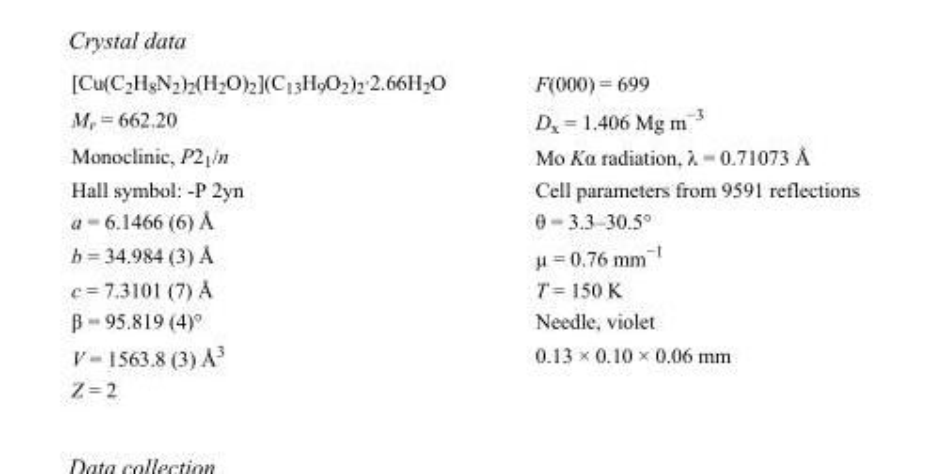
<table><tbody><tr><td>[Cu(C<sub>2</sub>H<sub>8</sub>N<sub>2</sub>)<sub>2</sub>(H<sub>2</sub>O)<sub>2</sub>](C<sub>13</sub>H<sub>9</sub>O<sub>2</sub>)<sub>2</sub>·2.66H<sub>2</sub>O</td><td>F(000) = 699</td></tr><tr><td>M<sub>r</sub> = 662.20</td><td>D<sub>x</sub> = 1.406 Mg m<sup>−3</sup></td></tr><tr><td>Monoclinic, P2<sub>1</sub>/n</td><td>Mo Kα radiation, λ = 0.71073 Å</td></tr><tr><td>Hall symbol: -P 2yn</td><td>Cell parameters from 9591 reflections</td></tr><tr><td>a = 6.1466 (6) Å</td><td>θ = 3.3–30.5°</td></tr><tr><td>b = 34.984 (3) Å</td><td>µ = 0.76 mm<sup>−1</sup></td></tr><tr><td>c = 7.3101 (7) Å</td><td>T = 150 K</td></tr><tr><td>β = 95.819 (4)°</td><td>Needle, violet</td></tr><tr><td>V = 1563.8 (3) Å<sup>3</sup></td><td>0.13 × 0.10 × 0.06 mm</td></tr><tr><td>Z = 2</td><td></td></tr></tbody></table>